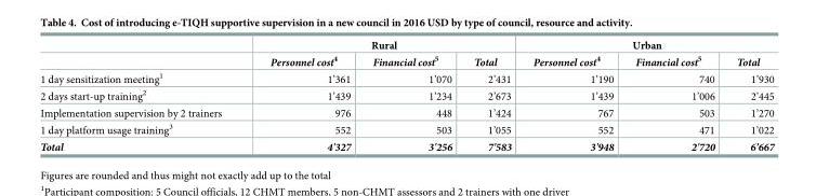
<table><thead><tr><td rowspan="2"></td><td colspan="3">Rural</td><td colspan="3">Urban</td></tr><tr><td>Personnel cost<sup>4</sup></td><td>Financial cost<sup>5</sup></td><td>Total</td><td>Personnel cost<sup>4</sup></td><td>Financial cost<sup>5</sup></td><td>Total</td></tr></thead><tbody><tr><td>1 day sensitization meeting<sup>1</sup></td><td>1’361</td><td>1’070</td><td>2’431</td><td>1’190</td><td>740</td><td>1’930</td></tr><tr><td>2 days start-up training<sup>2</sup></td><td>1’439</td><td>1’234</td><td>2’673</td><td>1’439</td><td>1’006</td><td>2’445</td></tr><tr><td>Implementation supervision by 2 trainers</td><td>976</td><td>448</td><td>1’424</td><td>767</td><td>503</td><td>1’270</td></tr><tr><td>1 day platform usage training<sup>3</sup></td><td>552</td><td>503</td><td>1’055</td><td>552</td><td>471</td><td>1’022</td></tr><tr><td>Total</td><td>4&#x27;327</td><td>3&#x27;256</td><td>7&#x27;583</td><td>3&#x27;948</td><td>2&#x27;720</td><td>6’667</td></tr></tbody></table>